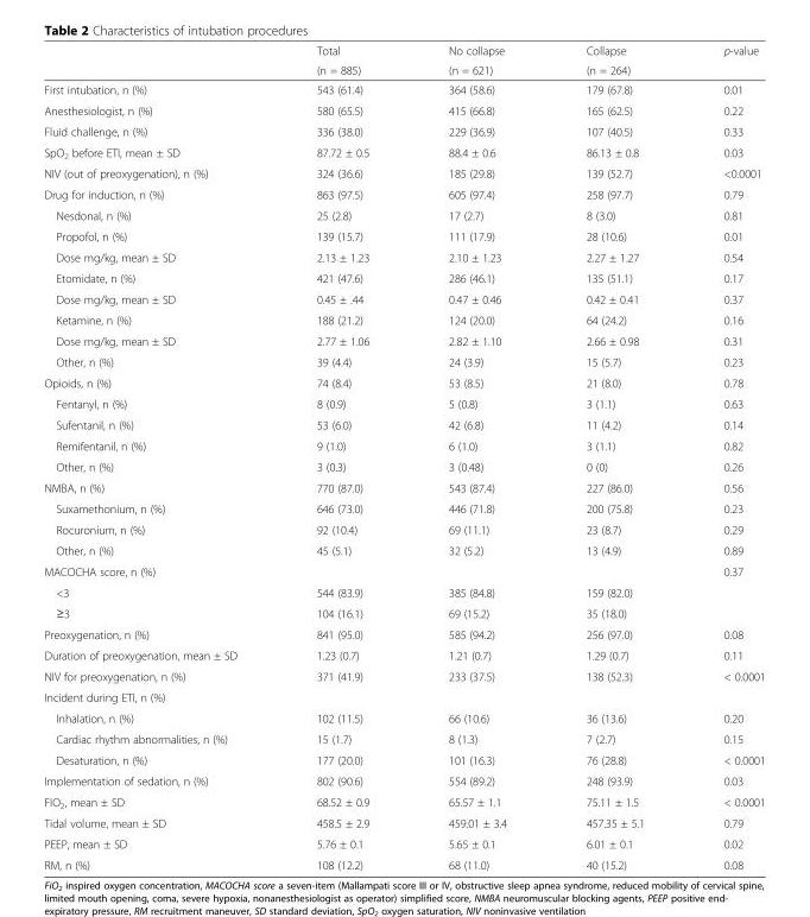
<table><thead><tr><td rowspan="2"></td><td rowspan="2">Total (n = 885)</td><td rowspan="2">No collapse (n = 621)</td><td rowspan="2">Collapse (n = 264)</td><td rowspan="2">p-value</td></tr><tr></tr></thead><tbody><tr><td>First intubation, n (%)</td><td>543 (61.4)</td><td>364 (58.6)</td><td>179 (67.8)</td><td>0.01</td></tr><tr><td>Anesthesiologist, n (%)</td><td>580 (65.5)</td><td>415 (66.8)</td><td>165 (62.5)</td><td>0.22</td></tr><tr><td>Fluid challenge, n (%)</td><td>336 (38.0)</td><td>229 (36.9)</td><td>107 (40.5)</td><td>0.33</td></tr><tr><td>SpO<sub>2</sub> before ETI, mean ± SD</td><td>87.72 ± 0.5</td><td>88.4 ± 0.6</td><td>86.13 ± 0.8</td><td>0.03</td></tr><tr><td>NIV (out of preoxygenation), n (%)</td><td>324 (36.6)</td><td>185 (29.8)</td><td>139 (52.7)</td><td>&lt;0.0001</td></tr><tr><td>Drug for induction, n (%)</td><td>863 (97.5)</td><td>605 (97.4)</td><td>258 (97.7)</td><td>0.79</td></tr><tr><td>Nesdonal, n (%)</td><td>25 (2.8)</td><td>17 (2.7)</td><td>8 (3.0)</td><td>0.81</td></tr><tr><td>Propofol, n (%)</td><td>139 (15.7)</td><td>111 (17.9)</td><td>28 (10.6)</td><td>0.01</td></tr><tr><td>Dose mg/kg, mean ± SD</td><td>2.13 ± 1.23</td><td>2.10 ± 1.23</td><td>2.27 ± 1.27</td><td>0.54</td></tr><tr><td>Etomidate, n (%)</td><td>421 (47.6)</td><td>286 (46.1)</td><td>135 (51.1)</td><td>0.17</td></tr><tr><td>Dose mg/kg, mean ± SD</td><td>0.45 ± .44</td><td>0.47 ± 0.46</td><td>0.42 ± 0.41</td><td>0.37</td></tr><tr><td>Ketamine, n (%)</td><td>188 (21.2)</td><td>124 (20.0)</td><td>64 (24.2)</td><td>0.16</td></tr><tr><td>Dose mg/kg, mean ± SD</td><td>2.77 ± 1.06</td><td>2.82 ± 1.10</td><td>2.66 ± 0.98</td><td>0.31</td></tr><tr><td>Other, n (%)</td><td>39 (4.4)</td><td>24 (3.9)</td><td>15 (5.7)</td><td>0.23</td></tr><tr><td>Opioids, n (%)</td><td>74 (8.4)</td><td>53 (8.5)</td><td>21 (8.0)</td><td>0.78</td></tr><tr><td>Fentanyl, n (%)</td><td>8 (0.9)</td><td>5 (0.8)</td><td>3 (1.1)</td><td>0.63</td></tr><tr><td>Sufentanil, n (%)</td><td>53 (6.0)</td><td>42 (6.8)</td><td>11 (4.2)</td><td>0.14</td></tr><tr><td>Remifentanil, n (%)</td><td>9 (1.0)</td><td>6 (1.0)</td><td>3 (1.1)</td><td>0.82</td></tr><tr><td>Other, n (%)</td><td>3 (0.3)</td><td>3 (0.48)</td><td>0 (0)</td><td>0.26</td></tr><tr><td>NMBA, n (%)</td><td>770 (87.0)</td><td>543 (87.4)</td><td>227 (86.0)</td><td>0.56</td></tr><tr><td>Suxamethonium, n (%)</td><td>646 (73.0)</td><td>446 (71.8)</td><td>200 (75.8)</td><td>0.23</td></tr><tr><td>Rocuronium, n (%)</td><td>92 (10.4)</td><td>69 (11.1)</td><td>23 (8.7)</td><td>0.29</td></tr><tr><td>Other, n (%)</td><td>45 (5.1)</td><td>32 (5.2)</td><td>13 (4.9)</td><td>0.89</td></tr><tr><td>MACOCHA score, n (%)</td><td></td><td></td><td></td><td>0.37</td></tr><tr><td>&lt;3</td><td>544 (83.9)</td><td>385 (84.8)</td><td>159 (82.0)</td><td></td></tr><tr><td>≥3</td><td>104 (16.1)</td><td>69 (15.2)</td><td>35 (18.0)</td><td></td></tr><tr><td>Preoxygenation, n (%)</td><td>841 (95.0)</td><td>585 (94.2)</td><td>256 (97.0)</td><td>0.08</td></tr><tr><td>Duration of preoxygenation, mean ± SD</td><td>1.23 (0.7)</td><td>1.21 (0.7)</td><td>1.29 (0.7)</td><td>0.11</td></tr><tr><td>NIV for preoxygenation, n (%)</td><td>371 (41.9)</td><td>233 (37.5)</td><td>138 (52.3)</td><td>&lt; 0.0001</td></tr><tr><td colspan="5">Incident during ETI, n (%)</td></tr><tr><td>Inhalation, n (%)</td><td>102 (11.5)</td><td>66 (10.6)</td><td>36 (13.6)</td><td>0.20</td></tr><tr><td>Cardiac rhythm abnormalities, n (%)</td><td>15 (1.7)</td><td>8 (1.3)</td><td>7 (2.7)</td><td>0.15</td></tr><tr><td>Desaturation, n (%)</td><td>177 (20.0)</td><td>101 (16.3)</td><td>76 (28.8)</td><td>&lt; 0.0001</td></tr><tr><td>Implementation of sedation, n (%)</td><td>802 (90.6)</td><td>554 (89.2)</td><td>248 (93.9)</td><td>0.03</td></tr><tr><td>FIO<sub>2</sub>, mean ± SD</td><td>68.52 ± 0.9</td><td>65.57 ± 1.1</td><td>75.11 ± 1.5</td><td>&lt; 0.0001</td></tr><tr><td>Tidal volume, mean ± SD</td><td>458.5 ± 2.9</td><td>459.01 ± 3.4</td><td>457.35 ± 5.1</td><td>0.79</td></tr><tr><td>PEEP, mean ± SD</td><td>5.76 ± 0.1</td><td>5.65 ± 0.1</td><td>6.01 ± 0.1</td><td>0.02</td></tr><tr><td>RM, n (%)</td><td>108 (12.2)</td><td>68 (11.0)</td><td>40 (15.2)</td><td>0.08</td></tr></tbody></table>